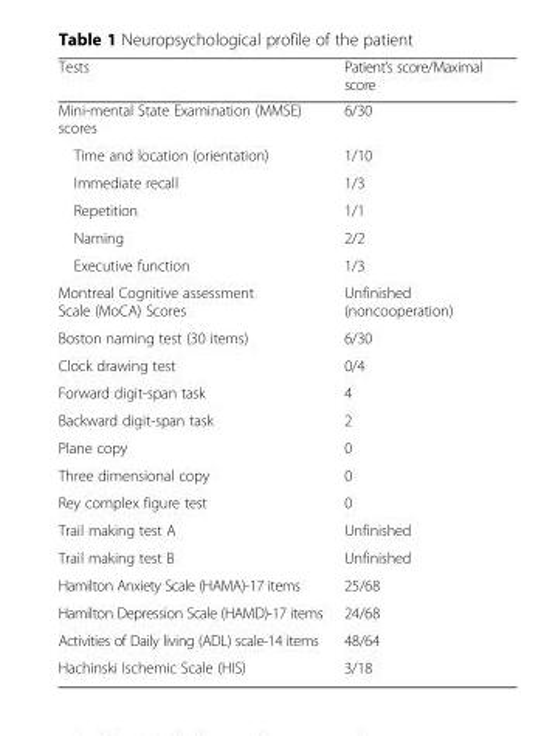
<table><thead><tr><td>Tests</td><td>Patient’s score/Maximal score</td></tr></thead><tbody><tr><td>Mini-mental State Examination (MMSE) scores</td><td>6/30</td></tr><tr><td>Time and location (orientation)</td><td>1/10</td></tr><tr><td>Immediate recall</td><td>1/3</td></tr><tr><td>Repetition</td><td>1/1</td></tr><tr><td>Naming</td><td>2/2</td></tr><tr><td>Executive function</td><td>1/3</td></tr><tr><td>Montreal Cognitive assessment Scale (MoCA) Scores</td><td>Unfinished (noncooperation)</td></tr><tr><td>Boston naming test (30 items)</td><td>6/30</td></tr><tr><td>Clock drawing test</td><td>0/4</td></tr><tr><td>Forward digit-span task</td><td>4</td></tr><tr><td>Backward digit-span task</td><td>2</td></tr><tr><td>Plane copy</td><td>0</td></tr><tr><td>Three dimensional copy</td><td>0</td></tr><tr><td>Rey complex figure test</td><td>0</td></tr><tr><td>Trail making test A</td><td>Unfinished</td></tr><tr><td>Trail making test B</td><td>Unfinished</td></tr><tr><td>Hamilton Anxiety Scale (HAMA)-17 items</td><td>25/68</td></tr><tr><td>Hamilton Depression Scale (HAMD)-17 items</td><td>24/68</td></tr><tr><td>Activities of Daily living (ADL) scale-14 items</td><td>48/64</td></tr><tr><td>Hachinski Ischemic Scale (HIS)</td><td>3/18</td></tr></tbody></table>